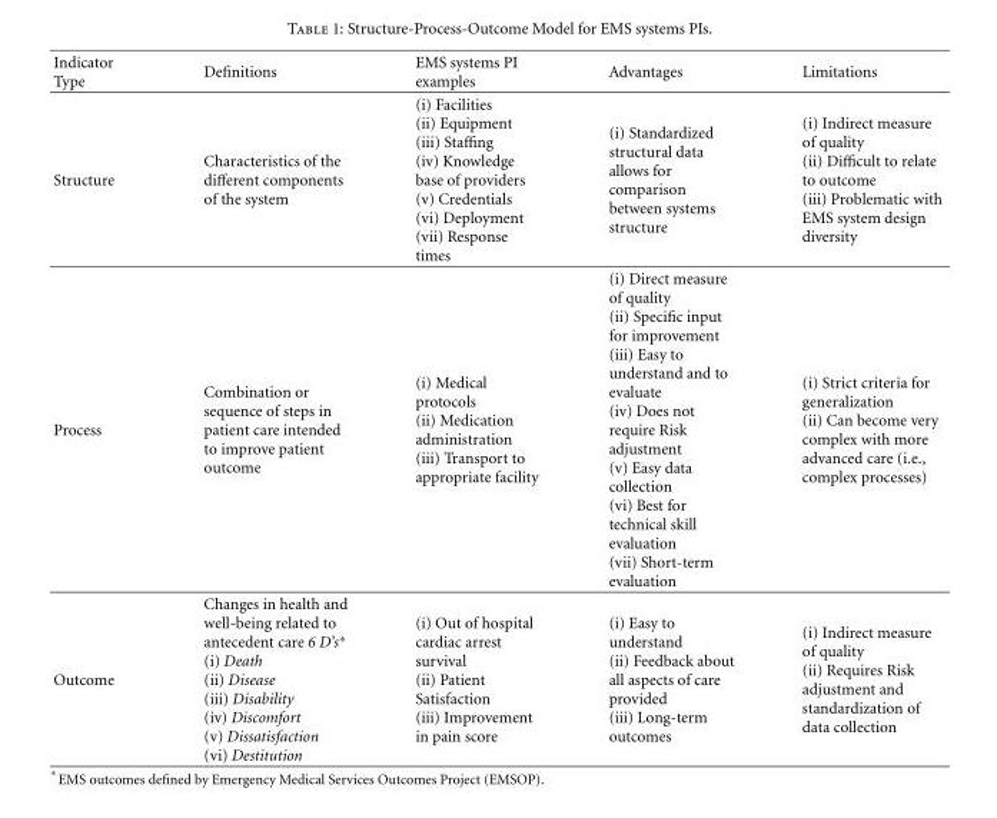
<table><thead><tr><td>Indicator Type</td><td>Definitions</td><td>EMS systems PI examples</td><td>Advantages</td><td>Limitations</td></tr></thead><tbody><tr><td>Structure</td><td>Characteristics of the different components of the system</td><td>(i) Facilities (ii) Equipment (iii) Staffing (iv) Knowledge base of providers (v) Credentials (vi) Deployment (vii) Response times</td><td>(i) Standardized structural data allows for comparison between systems structure</td><td>(i) Indirect measure of quality (ii) Difficult to relate to outcome (iii) Problematic with EMS system design diversity</td></tr><tr><td>Process</td><td>Combination or sequence of steps in patient care intended to improve patient outcome</td><td>(i) Medical protocols (ii) Medication administration (iii) Transport to appropriate facility</td><td>(i) Direct measure of quality (ii) Specific input for improvement (iii) Easy to understand and to evaluate (iv) Does not require Risk adjustment (v) Easy data collection (vi) Best for technical skill evaluation (vii) Short-term evaluation</td><td>(i) Strict criteria for generalization (ii) Can become very complex with more advanced care (i.e., complex processes)</td></tr><tr><td>Outcome</td><td>Changes in health and well-being related to antecedent care 6 D’s∗ (i) Death (ii) Disease (iii) Disability (iv) Discomfort (v) Dissatisfaction (vi) Destitution</td><td>(i) Out of hospital cardiac arrest survival (ii) Patient Satisfaction (iii) Improvement in pain score</td><td>(i) Easy to understand (ii) Feedback about all aspects of care provided (iii) Long-term outcomes</td><td>(i) Indirect measure of quality (ii) Requires Risk adjustment and standardization of data collection</td></tr></tbody></table>